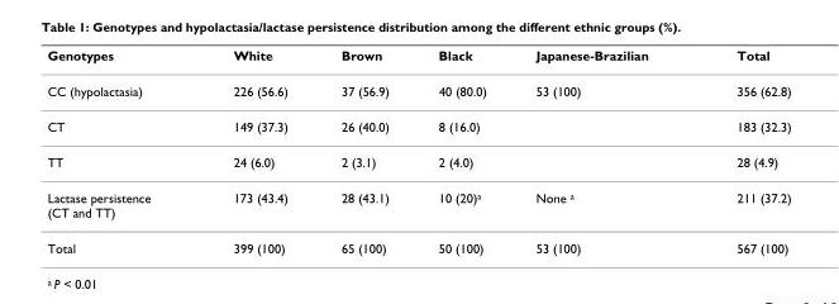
<table><thead><tr><td>Genotypes</td><td>White</td><td>Brown</td><td>Black</td><td>Japanese-Brazilian</td><td>Total</td></tr></thead><tbody><tr><td>CC (hypolactasia)</td><td>226 (56.6)</td><td>37 (56.9)</td><td>40 (80.0)</td><td>53 (100)</td><td>356 (62.8)</td></tr><tr><td>CT</td><td>149 (37.3)</td><td>26 (40.0)</td><td>8 (16.0)</td><td></td><td>183 (32.3)</td></tr><tr><td>TT</td><td>24 (6.0)</td><td>2 (3.1)</td><td>2 (4.0)</td><td></td><td>28 (4.9)</td></tr><tr><td>Lactase persistence (CT and TT)</td><td>173 (43.4)</td><td>28 (43.1)</td><td>10 (20)<sup>a</sup></td><td>None <sup>a</sup></td><td>211 (37.2)</td></tr><tr><td>Total</td><td>399 (100)</td><td>65 (100)</td><td>50 (100)</td><td>53 (100)</td><td>567 (100)</td></tr></tbody></table>